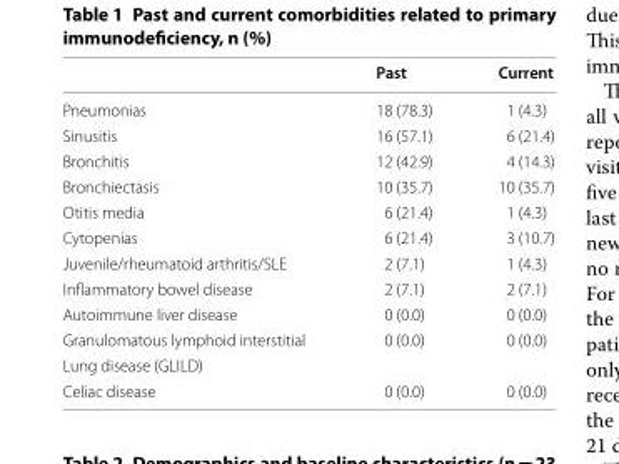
<table><thead><tr><td></td><td>Past</td><td>Current</td></tr></thead><tbody><tr><td>Pneumonias</td><td>18 (78.3)</td><td>1 (4.3)</td></tr><tr><td>Sinusitis</td><td>16 (57.1)</td><td>6 (21.4)</td></tr><tr><td>Bronchitis</td><td>12 (42.9)</td><td>4 (14.3)</td></tr><tr><td>Bronchiectasis</td><td>10 (35.7)</td><td>10 (35.7)</td></tr><tr><td>Otitis media</td><td>6 (21.4)</td><td>1 (4.3)</td></tr><tr><td>Cytopenias</td><td>6 (21.4)</td><td>3 (10.7)</td></tr><tr><td>Juvenile/rheumatoid arthritis/SLE</td><td>2 (7.1)</td><td>1 (4.3)</td></tr><tr><td>Inflammatory bowel disease</td><td>2 (7.1)</td><td>2 (7.1)</td></tr><tr><td>Autoimmune liver disease</td><td>0 (0.0)</td><td>0 (0.0)</td></tr><tr><td>Granulomatous lymphoid interstitial</td><td>0 (0.0)</td><td>0 (0.0)</td></tr><tr><td colspan="3">Lung disease (GLILD)</td></tr><tr><td>Celiac disease</td><td>0 (0.0)</td><td>0 (0.0)</td></tr></tbody></table>